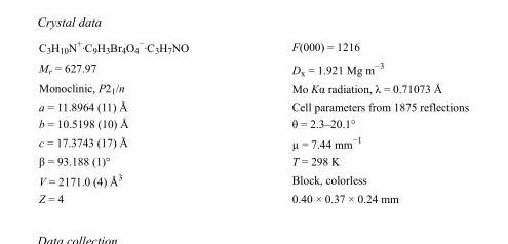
<table><tbody><tr><td>C<sub>3</sub>H<sub>10</sub>N<sup>+</sup>·C<sub>9</sub>H<sub>3</sub>Br<sub>4</sub>O<sub>4</sub> <sup>−</sup>·C<sub>3</sub>H<sub>7</sub>NO</td><td>F(000) = 1216</td></tr><tr><td>M<sub>r</sub> = 627.97</td><td>D<sub>x</sub> = 1.921 Mg m<sup>−3</sup></td></tr><tr><td>Monoclinic, P2<sub>1</sub>/n</td><td>Mo Kα radiation, λ = 0.71073 Å</td></tr><tr><td>a = 11.8964 (11) Å</td><td>Cell parameters from 1875 reflections</td></tr><tr><td>b = 10.5198 (10) Å</td><td>θ = 2.3–20.1°</td></tr><tr><td>c = 17.3743 (17) Å</td><td>µ = 7.44 mm<sup>−1</sup></td></tr><tr><td>β = 93.188 (1)°</td><td>T = 298 K</td></tr><tr><td>V = 2171.0 (4) Å<sup>3</sup></td><td>Block, colorless</td></tr><tr><td>Z = 4</td><td>0.40 × 0.37 × 0.24 mm</td></tr></tbody></table>